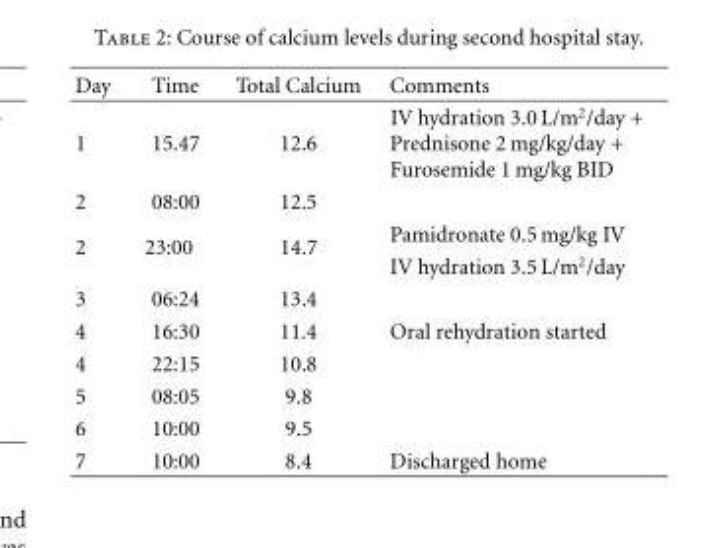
<table><thead><tr><td>Day</td><td>Time</td><td>Total Calcium</td><td>Comments</td></tr></thead><tbody><tr><td>1</td><td>15.47</td><td>12.6</td><td>IV hydration 3.0 L/m<sup>2</sup>/day + Prednisone 2 mg/kg/day + Furosemide 1 mg/kg BID</td></tr><tr><td>2</td><td>08:00</td><td>12.5</td><td></td></tr><tr><td rowspan="2">2</td><td rowspan="2">23:00</td><td rowspan="2">14.7</td><td>Pamidronate 0.5 mg/kg IV</td></tr><tr><td>IV hydration 3.5 L/m<sup>2</sup>/day</td></tr><tr><td>3</td><td>06:24</td><td>13.4</td><td></td></tr><tr><td>4</td><td>16:30</td><td>11.4</td><td>Oral rehydration started</td></tr><tr><td>4</td><td>22:15</td><td>10.8</td><td></td></tr><tr><td>5</td><td>08:05</td><td>9.8</td><td></td></tr><tr><td>6</td><td>10:00</td><td>9.5</td><td></td></tr><tr><td>7</td><td>10:00</td><td>8.4</td><td>Discharged home</td></tr></tbody></table>